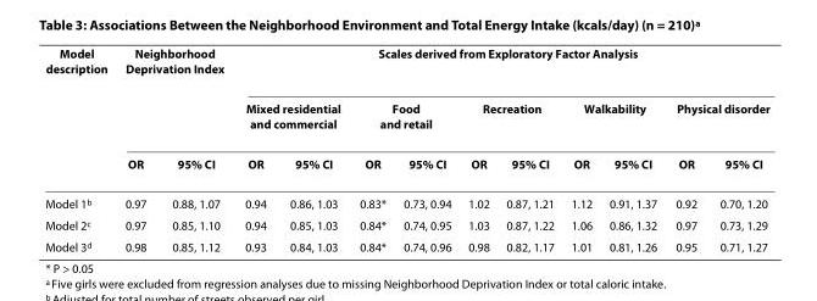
<table><thead><tr><td rowspan="3">Model description</td><td colspan="2">Neighborhood Deprivation Index</td><td colspan="10">Scales derived from Exploratory Factor Analysis</td></tr><tr><td rowspan="2">OR</td><td rowspan="2">95% CI</td><td colspan="2">Mixed residential and commercial</td><td colspan="2">Food and retail</td><td colspan="2">Recreation</td><td colspan="2">Walkability</td><td colspan="2">Physical disorder</td></tr><tr><td>OR</td><td>95% CI</td><td>OR</td><td>95% CI</td><td>OR</td><td>95% CI</td><td>OR</td><td>95% CI</td><td>OR</td><td>95% CI</td></tr></thead><tbody><tr><td>Model 1<sup>b</sup></td><td>0.97</td><td>0.88, 1.07</td><td>0.94</td><td>0.86, 1.03</td><td>0.83*</td><td>0.73, 0.94</td><td>1.02</td><td>0.87, 1.21</td><td>1.12</td><td>0.91, 1.37</td><td>0.92</td><td>0.70, 1.20</td></tr><tr><td>Model 2<sup>c</sup></td><td>0.97</td><td>0.85, 1.10</td><td>0.94</td><td>0.85, 1.03</td><td>0.84*</td><td>0.74, 0.95</td><td>1.03</td><td>0.87, 1.22</td><td>1.06</td><td>0.86, 1.32</td><td>0.97</td><td>0.73, 1.29</td></tr><tr><td>Model 3<sup>d</sup></td><td>0.98</td><td>0.85, 1.12</td><td>0.93</td><td>0.84, 1.03</td><td>0.84*</td><td>0.74, 0.96</td><td>0.98</td><td>0.82, 1.17</td><td>1.01</td><td>0.81, 1.26</td><td>0.95</td><td>0.71, 1.27</td></tr></tbody></table>